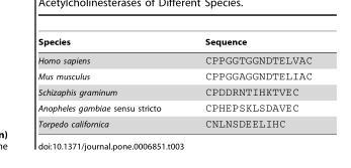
<table><thead><tr><td>Species</td><td>Sequence</td></tr></thead><tbody><tr><td>Homo sapiens</td><td>CPPGGTGGNDTELVAC</td></tr><tr><td>Mus musculus</td><td>CPPGGAGGNDTELIAC</td></tr><tr><td>Schizaphis graminum</td><td>CPDDRNTIHKTVEC</td></tr><tr><td>Anopheles gambiae sensu stricto</td><td>CPHEPSKLSDAVEC</td></tr><tr><td>Torpedo californica</td><td>CNLNSDEELIHC</td></tr></tbody></table>